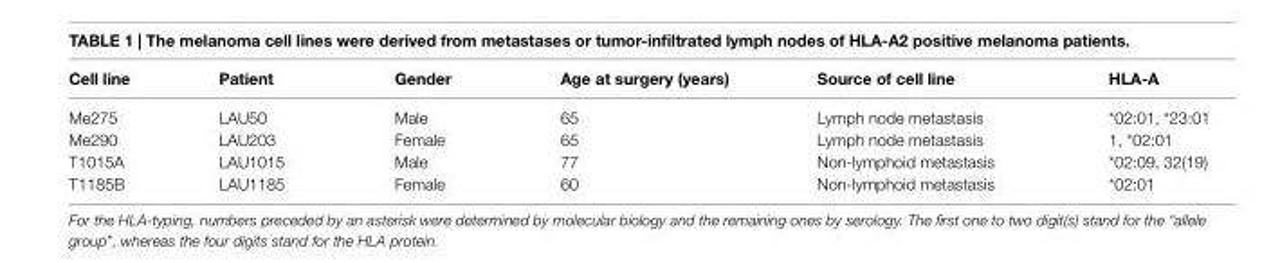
<table><thead><tr><td>Cell line</td><td>Patient</td><td>Gender</td><td>Age at surgery (years)</td><td>source of cell line</td><td>hLA-A</td></tr></thead><tbody><tr><td>Me275</td><td>LAU50</td><td>Male</td><td>65</td><td>Lymph node metastasis</td><td>*02:01, *23:01</td></tr><tr><td>Me290</td><td>LAU203</td><td>Female</td><td>65</td><td>Lymph node metastasis</td><td>1, *02:01</td></tr><tr><td>T1015A</td><td>LAU1015</td><td>Male</td><td>77</td><td>Non-lymphoid metastasis</td><td>*02:09, 32(19)</td></tr><tr><td>T1185B</td><td>LAU1185</td><td>Female</td><td>60</td><td>Non-lymphoid metastasis</td><td>*02:01</td></tr></tbody></table>